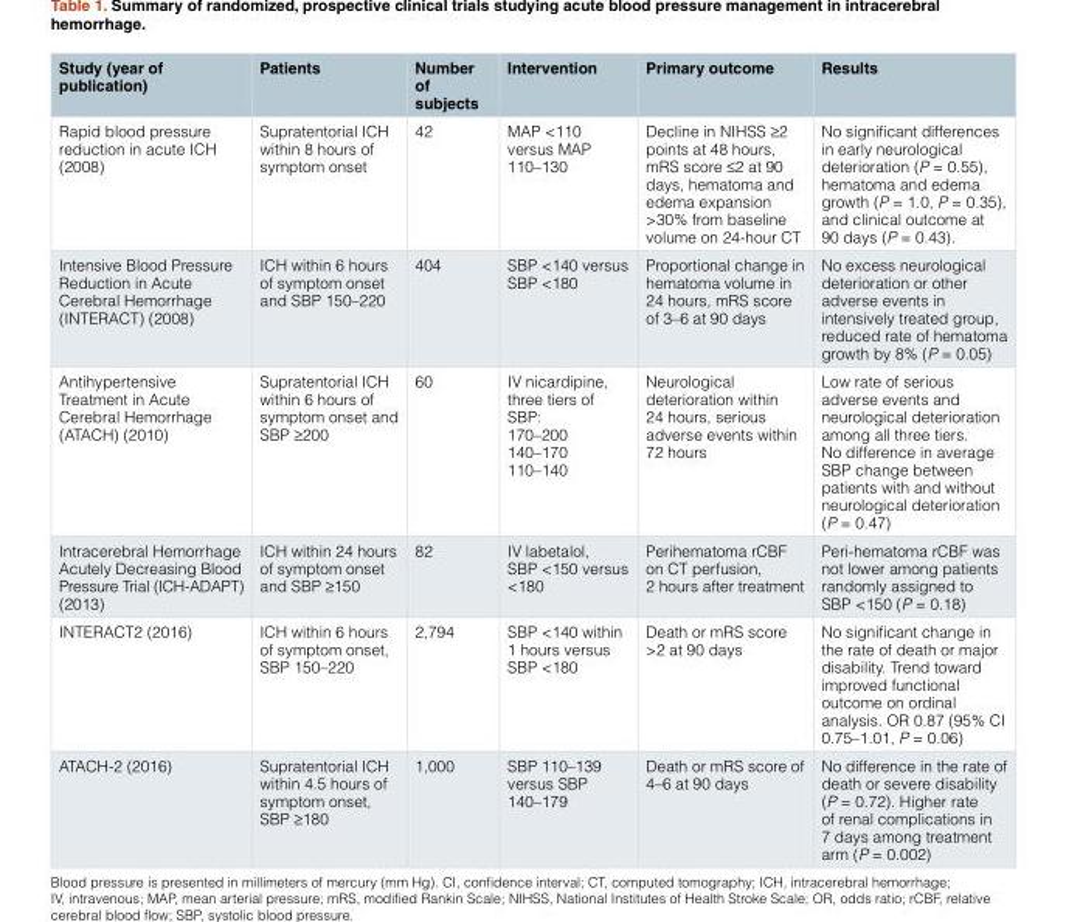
<table><thead><tr><td>Study (year of publication)</td><td>Patients</td><td>Number of subjects</td><td>Intervention</td><td>Primary outcome</td><td>Results</td></tr></thead><tbody><tr><td>Rapid blood pressure reduction in acute ICH (2008)</td><td>Supratentorial ICH within 8 hours of symptom onset</td><td>42</td><td>MAP &lt;110 versus MAP 110–130</td><td>Decline in NIHSS ≥2 points at 48 hours, mRS score ≤2 at 90 days, hematoma and edema expansion &gt;30% from baseline volume on 24-hour CT</td><td>No significant differences in early neurological deterioration (P = 0.55), hematoma and edema growth (P = 1.0, P = 0.35), and clinical outcome at 90 days (P = 0.43).</td></tr><tr><td>Intensive Blood Pressure Reduction in Acute Cerebral Hemorrhage (INTERACT) (2008)</td><td>ICH within 6 hours of symptom onset and SBP 150–220</td><td>404</td><td>SBP &lt;140 versus SBP &lt;180</td><td>Proportional change in hematoma volume in 24 hours, mRS score of 3–6 at 90 days</td><td>No excess neurological deterioration or other adverse events in intensively treated group, reduced rate of hematoma growth by 8% (P = 0.05)</td></tr><tr><td>Antihypertensive Treatment in Acute Cerebral Hemorrhage (ATACH) (2010)</td><td>Supratentorial ICH within 6 hours of symptom onset and SBP ≥200</td><td>60</td><td>IV nicardipine, three tiers of SBP: 170–200 140–170 110–140</td><td>Neurological deterioration within 24 hours, serious adverse events within 72 hours</td><td>Low rate of serious adverse events and neurological deterioration among all three tiers. No difference in average SBP change between patients with and without neurological deterioration (P = 0.47)</td></tr><tr><td>Intracerebral Hemorrhage Acutely Decreasing Blood Pressure Trial (ICH-ADAPT) (2013)</td><td>ICH within 24 hours of symptom onset and SBP ≥150</td><td>82</td><td>IV labetalol, SBP &lt;150 versus &lt;180</td><td>Perihematoma rCBF on CT perfusion, 2 hours after treatment</td><td>Peri-hematoma rCBF was not lower among patients randomly assigned to SBP &lt;150 (P = 0.18)</td></tr><tr><td>INTERACT2 (2016)</td><td>ICH within 6 hours of symptom onset, SBP 150–220</td><td>2,794</td><td>SBP &lt;140 within 1 hours versus SBP &lt;180</td><td>Death or mRS score &gt;2 at 90 days</td><td>No significant change in the rate of death or major disability. Trend toward improved functional outcome on ordinal analysis. OR 0.87 (95% CI 0.75–1.01, P = 0.06)</td></tr><tr><td>ATACH-2 (2016)</td><td>Supratentorial ICH within 4.5 hours of symptom onset, SBP ≥180</td><td>1,000</td><td>SBP 110–139 versus SBP 140–179</td><td>Death or mRS score of 4–6 at 90 days</td><td>No difference in the rate of death or severe disability (P = 0.72). Higher rate of renal complications in 7 days among treatment arm (P = 0.002)</td></tr></tbody></table>